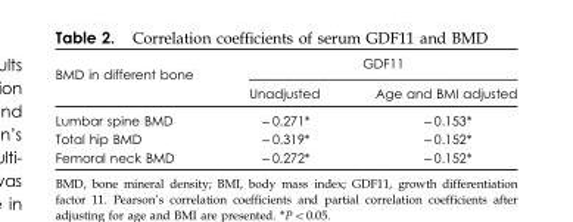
<table><thead><tr><td rowspan="2">BMD in different bone</td><td colspan="2">GDF11</td></tr><tr><td>Unadjusted</td><td>Age and BMI adjusted</td></tr></thead><tbody><tr><td>Lumbar spine BMD</td><td>− 0.271*</td><td>− 0.153*</td></tr><tr><td>Total hip BMD</td><td>− 0.319*</td><td>− 0.152*</td></tr><tr><td>Femoral neck BMD</td><td>− 0.272*</td><td>− 0.152*</td></tr></tbody></table>